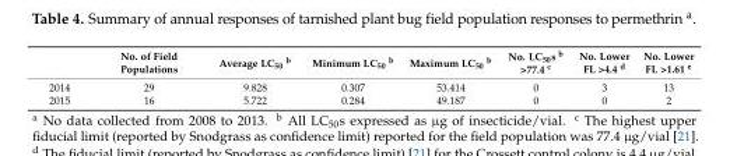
<table><thead><tr><td></td><td>No. of Field Populations</td><td>Average LC<sub>50</sub> <sup>b</sup></td><td>Minimum LC<sub>50</sub> <sup>b</sup></td><td>Maximum LC<sub>50</sub> <sup>b</sup></td><td>No. LC<sub>50</sub>s <sup>b</sup> &gt;77.4 <sup>c</sup></td><td>No. Lower FL &gt;4.4 <sup>d</sup></td><td>No. Lower FL &gt;1.61 <sup>e</sup></td></tr></thead><tbody><tr><td>2014</td><td>29</td><td>9.828</td><td>0.307</td><td>53.414</td><td>0</td><td>3</td><td>13</td></tr><tr><td>2015</td><td>16</td><td>5.722</td><td>0.284</td><td>49.187</td><td>0</td><td>0</td><td>2</td></tr></tbody></table>